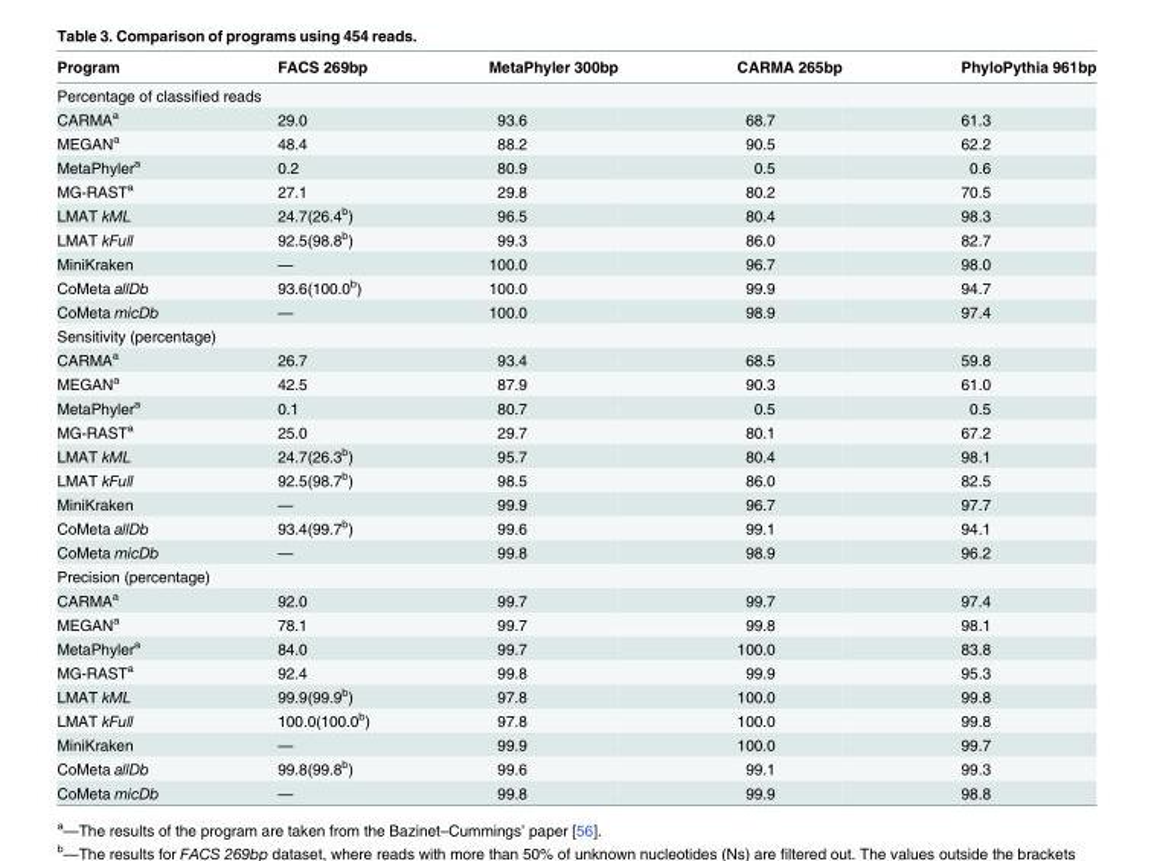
<table><thead><tr><td>Program</td><td>FACS 269bp</td><td>MetaPhyler 300bp</td><td>CARMA 265bp</td><td>PhyloPythia 961bp</td></tr></thead><tbody><tr><td colspan="5">Percentage of classified reads</td></tr><tr><td>CARMA<sup>a</sup></td><td>29.0</td><td>93.6</td><td>68.7</td><td>61.3</td></tr><tr><td>MEGAN<sup>a</sup></td><td>48.4</td><td>88.2</td><td>90.5</td><td>62.2</td></tr><tr><td>MetaPhyler<sup>a</sup></td><td>0.2</td><td>80.9</td><td>0.5</td><td>0.6</td></tr><tr><td>MG-RAST<sup>a</sup></td><td>27.1</td><td>29.8</td><td>80.2</td><td>70.5</td></tr><tr><td>LMAT kML</td><td>24.7(26.4<sup>b</sup>)</td><td>96.5</td><td>80.4</td><td>98.3</td></tr><tr><td>LMAT kFull</td><td>92.5(98.8<sup>b</sup>)</td><td>99.3</td><td>86.0</td><td>82.7</td></tr><tr><td>MiniKraken</td><td>—</td><td>100.0</td><td>96.7</td><td>98.0</td></tr><tr><td>CoMeta allDb</td><td>93.6(100.0<sup>b</sup>)</td><td>100.0</td><td>99.9</td><td>94.7</td></tr><tr><td>CoMeta micDb</td><td>—</td><td>100.0</td><td>98.9</td><td>97.4</td></tr><tr><td colspan="5">Sensitivity (percentage)</td></tr><tr><td>CARMA<sup>a</sup></td><td>26.7</td><td>93.4</td><td>68.5</td><td>59.8</td></tr><tr><td>MEGAN<sup>a</sup></td><td>42.5</td><td>87.9</td><td>90.3</td><td>61.0</td></tr><tr><td>MetaPhyler<sup>a</sup></td><td>0.1</td><td>80.7</td><td>0.5</td><td>0.5</td></tr><tr><td>MG-RAST<sup>a</sup></td><td>25.0</td><td>29.7</td><td>80.1</td><td>67.2</td></tr><tr><td>LMAT kML</td><td>24.7(26.3<sup>b</sup>)</td><td>95.7</td><td>80.4</td><td>98.1</td></tr><tr><td>LMAT kFull</td><td>92.5(98.7<sup>b</sup>)</td><td>98.5</td><td>86.0</td><td>82.5</td></tr><tr><td>MiniKraken</td><td>—</td><td>99.9</td><td>96.7</td><td>97.7</td></tr><tr><td>CoMeta allDb</td><td>93.4(99.7<sup>b</sup>)</td><td>99.6</td><td>99.1</td><td>94.1</td></tr><tr><td>CoMeta micDb</td><td>—</td><td>99.8</td><td>98.9</td><td>96.2</td></tr><tr><td colspan="5">Precision (percentage)</td></tr><tr><td>CARMA<sup>a</sup></td><td>92.0</td><td>99.7</td><td>99.7</td><td>97.4</td></tr><tr><td>MEGAN<sup>a</sup></td><td>78.1</td><td>99.7</td><td>99.8</td><td>98.1</td></tr><tr><td>MetaPhyler<sup>a</sup></td><td>84.0</td><td>99.7</td><td>100.0</td><td>83.8</td></tr><tr><td>MG-RAST<sup>a</sup></td><td>92.4</td><td>99.8</td><td>99.9</td><td>95.3</td></tr><tr><td>LMAT kML</td><td>99.9(99.9<sup>b</sup>)</td><td>97.8</td><td>100.0</td><td>99.8</td></tr><tr><td>LMAT kFull</td><td>100.0(100.0<sup>b</sup>)</td><td>97.8</td><td>100.0</td><td>99.8</td></tr><tr><td>MiniKraken</td><td>—</td><td>99.9</td><td>100.0</td><td>99.7</td></tr><tr><td>CoMeta allDb</td><td>99.8(99.8<sup>b</sup>)</td><td>99.6</td><td>99.1</td><td>99.3</td></tr><tr><td>CoMeta micDb</td><td>—</td><td>99.8</td><td>99.9</td><td>98.8</td></tr></tbody></table>